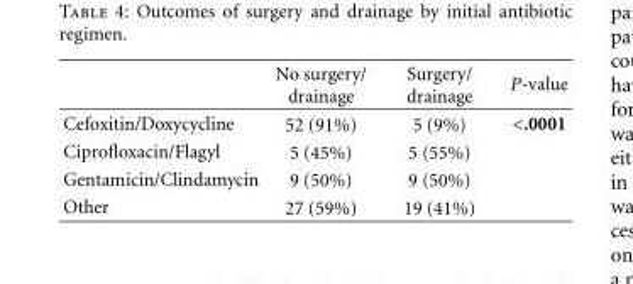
<table><thead><tr><td></td><td>No surgery/ drainage</td><td>Surgery/ drainage</td><td>P-value</td></tr></thead><tbody><tr><td>Cefoxitin/Doxycycline</td><td>52 (91%)</td><td>5 (9%)</td><td>&lt;.0001</td></tr><tr><td>Ciprofloxacin/Flagyl</td><td>5 (45%)</td><td>5 (55%)</td><td></td></tr><tr><td>Gentamicin/Clindamycin</td><td>9 (50%)</td><td>9 (50%)</td><td></td></tr><tr><td>Other</td><td>27 (59%)</td><td>19 (41%)</td><td></td></tr></tbody></table>